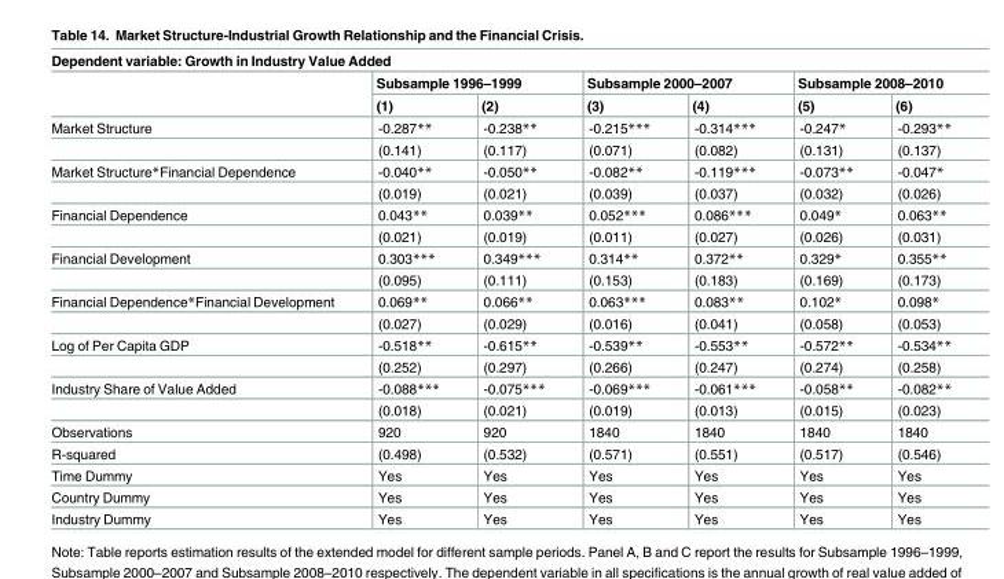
<table><thead><tr><td colspan="7">Dependent variable: Growth in Industry Value Added</td></tr><tr><td rowspan="2"></td><td colspan="2">Subsample 1996–1999</td><td colspan="2">Subsample 2000–2007</td><td colspan="2">Subsample 2008–2010</td></tr><tr><td>(1)</td><td>(2)</td><td>(3)</td><td>(4)</td><td>(5)</td><td>(6)</td></tr></thead><tbody><tr><td rowspan="2">Market Structure</td><td>-0.287**</td><td>-0.238**</td><td>-0.215***</td><td>-0.314***</td><td>-0.247*</td><td>-0.293**</td></tr><tr><td>(0.141)</td><td>(0.117)</td><td>(0.071)</td><td>(0.082)</td><td>(0.131)</td><td>(0.137)</td></tr><tr><td rowspan="2">Market Structure*Financial Dependence</td><td>-0.040**</td><td>-0.050**</td><td>-0.082**</td><td>-0.119***</td><td>-0.073**</td><td>-0.047*</td></tr><tr><td>(0.019)</td><td>(0.021)</td><td>(0.039)</td><td>(0.037)</td><td>(0.032)</td><td>(0.026)</td></tr><tr><td rowspan="2">Financial Dependence</td><td>0.043**</td><td>0.039**</td><td>0.052***</td><td>0.086***</td><td>0.049*</td><td>0.063**</td></tr><tr><td>(0.021)</td><td>(0.019)</td><td>(0.011)</td><td>(0.027)</td><td>(0.026)</td><td>(0.031)</td></tr><tr><td rowspan="2">Financial Development</td><td>0.303***</td><td>0.349***</td><td>0.314**</td><td>0.372**</td><td>0.329*</td><td>0.355**</td></tr><tr><td>(0.095)</td><td>(0.111)</td><td>(0.153)</td><td>(0.183)</td><td>(0.169)</td><td>(0.173)</td></tr><tr><td rowspan="2">Financial Dependence*Financial Development</td><td>0.069**</td><td>0.066**</td><td>0.063***</td><td>0.083**</td><td>0.102*</td><td>0.098*</td></tr><tr><td>(0.027)</td><td>(0.029)</td><td>(0.016)</td><td>(0.041)</td><td>(0.058)</td><td>(0.053)</td></tr><tr><td rowspan="2">Log of Per Capita GDP</td><td>-0.518**</td><td>-0.615**</td><td>-0.539**</td><td>-0.553**</td><td>-0.572**</td><td>-0.534**</td></tr><tr><td>(0.252)</td><td>(0.297)</td><td>(0.266)</td><td>(0.247)</td><td>(0.274)</td><td>(0.258)</td></tr><tr><td rowspan="2">Industry Share of Value Added</td><td>-0.088***</td><td>-0.075***</td><td>-0.069***</td><td>-0.061***</td><td>-0.058**</td><td>-0.082**</td></tr><tr><td>(0.018)</td><td>(0.021)</td><td>(0.019)</td><td>(0.013)</td><td>(0.015)</td><td>(0.023)</td></tr><tr><td>Observations</td><td>920</td><td>920</td><td>1840</td><td>1840</td><td>1840</td><td>1840</td></tr><tr><td>R-squared</td><td>(0.498)</td><td>(0.532)</td><td>(0.571)</td><td>(0.551)</td><td>(0.517)</td><td>(0.546)</td></tr><tr><td>Time Dummy</td><td>Yes</td><td>Yes</td><td>Yes</td><td>Yes</td><td>Yes</td><td>Yes</td></tr><tr><td>Country Dummy</td><td>Yes</td><td>Yes</td><td>Yes</td><td>Yes</td><td>Yes</td><td>Yes</td></tr><tr><td>Industry Dummy</td><td>Yes</td><td>Yes</td><td>Yes</td><td>Yes</td><td>Yes</td><td>Yes</td></tr></tbody></table>